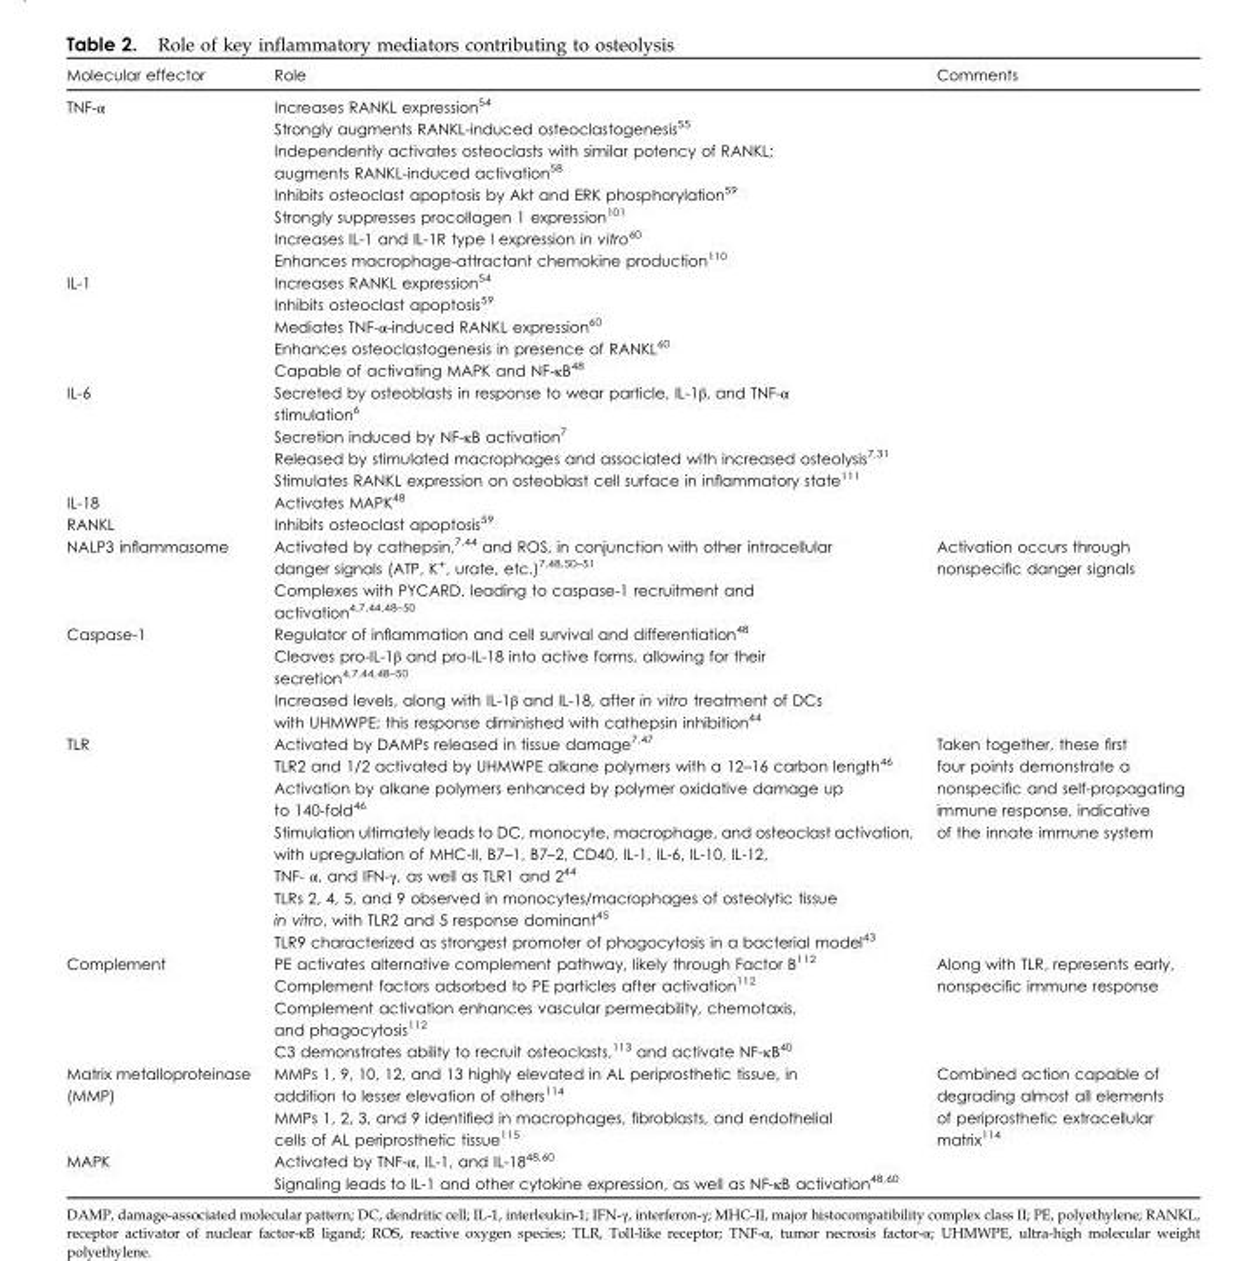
<table><thead><tr><td>Molecular effector</td><td>Role</td><td>Comments</td></tr></thead><tbody><tr><td>TNF-α</td><td>Increases RANKL expression<sup>54</sup> Strongly augments RANKL-induced osteoclastogenesis<sup>55</sup> Independently activates osteoclasts with similar potency of RANKL; augments RANKL-induced activation<sup>58</sup> Inhibits osteoclast apoptosis by Akt and ERK phosphorylation<sup>59</sup> Strongly suppresses procollagen 1 expression<sup>101</sup> Increases IL-1 and IL-1R type I expression in vitro<sup>60</sup> Enhances macrophage-attractant chemokine production<sup>110</sup></td><td></td></tr><tr><td>IL-1</td><td>Increases RANKL expression<sup>54</sup> Inhibits osteoclast apoptosis<sup>59</sup> Mediates TNF-α-induced RANKL expression<sup>60</sup> Enhances osteoclastogenesis in presence of RANKL<sup>60</sup> Capable of activating MAPK and NF-κB<sup>48</sup></td><td></td></tr><tr><td>IL-6</td><td>Secreted by osteoblasts in response to wear particle, IL-1β, and TNF-α stimulation<sup>6</sup> Secretion induced by NF-κB activation<sup>7</sup> Released by stimulated macrophages and associated with increased osteolysis<sup>7,31</sup> Stimulates RANKL expression on osteoblast cell surface in inflammatory state<sup>111</sup></td><td></td></tr><tr><td>IL-18</td><td>Activates MAPK<sup>48</sup></td><td></td></tr><tr><td>RANKL</td><td>Inhibits osteoclast apoptosis<sup>59</sup></td><td></td></tr><tr><td>NALP3 inflammasome</td><td>Activated by cathepsin,7,44 and ROS, in conjunction with other intracellular danger signals (ATP, K+, urate, etc.)7,48,50–51 Complexes with PYCARD, leading to caspase-1 recruitment and activation4,7,44,48–50</td><td>Activation occurs through nonspecific danger signals</td></tr><tr><td>Caspase-1</td><td>Regulator of inflammation and cell survival and differentiation<sup>48</sup> Cleaves pro-IL-1β and pro-IL-18 into active forms, allowing for their secretion<sup>4,7,44,48–50</sup> Increased levels, along with IL-1β and IL-18, after in vitro treatment of DCs with UHMWPE; this response diminished with cathepsin inhibition<sup>44</sup></td><td></td></tr><tr><td>TLR</td><td>Activated by DAMPs released in tissue damage<sup>7,47</sup> TLR2 and 1/2 activated by UHMWPE alkane polymers with a 12–16 carbon length<sup>46</sup> Activation by alkane polymers enhanced by polymer oxidative damage up to 140-fold<sup>46</sup> Stimulation ultimately leads to DC, monocyte, macrophage, and osteoclast activation, with upregulation of MHC-II, B7–1, B7–2, CD40, IL-1, IL-6, IL-10, IL-12, TNF- α, and IFN-γ, as well as TLR1 and 2<sup>44</sup> TLRs 2, 4, 5, and 9 observed in monocytes/macrophages of osteolytic tissue in vitro, with TLR2 and 5 response dominant<sup>45</sup> TLR9 characterized as strongest promoter of phagocytosis in a bacterial model<sup>43</sup></td><td>Taken together, these first four points demonstrate a nonspecific and self-propagating immune response, indicative of the innate immune system</td></tr><tr><td>Complement</td><td>PE activates alternative complement pathway, likely through Factor B<sup>112</sup> Complement factors adsorbed to PE particles after activation<sup>112</sup> Complement activation enhances vascular permeability, chemotaxis, and phagocytosis<sup>112</sup> C3 demonstrates ability to recruit osteoclasts,<sup>113</sup> and activate NF-κB<sup>40</sup></td><td>Along with TLR, represents early, nonspecific immune response</td></tr><tr><td>Matrix metalloproteinase (MMP)</td><td>MMPs 1, 9, 10, 12, and 13 highly elevated in AL periprosthetic tissue, in addition to lesser elevation of others<sup>114</sup> MMPs 1, 2, 3, and 9 identified in macrophages, fibroblasts, and endothelial cells of AL periprosthetic tissue<sup>115</sup></td><td>Combined action capable of degrading almost all elements of periprosthetic extracellular matrix<sup>114</sup></td></tr><tr><td>MAPK</td><td>Activated by TNF-α, IL-1, and IL-18<sup>48,60</sup> Signaling leads to IL-1 and other cytokine expression, as well as NF-κB activation<sup>48,60</sup></td><td></td></tr></tbody></table>